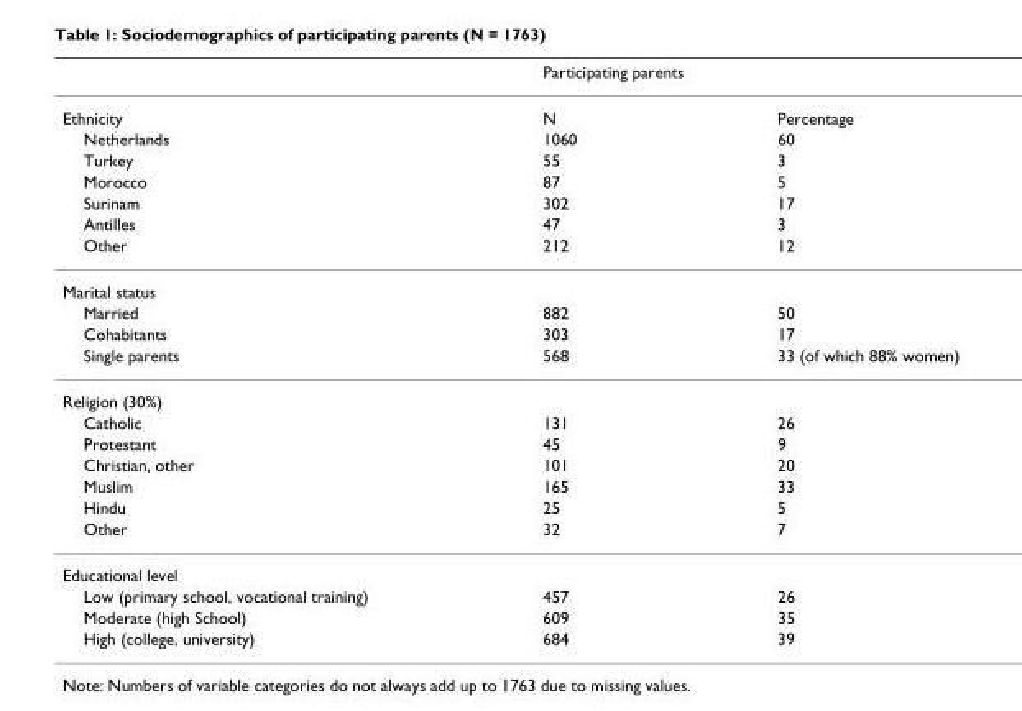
<table><thead><tr><td></td><td>Participating parents</td><td></td></tr></thead><tbody><tr><td>Ethnicity</td><td>N</td><td>Percentage</td></tr><tr><td>Netherlands</td><td>1060</td><td>60</td></tr><tr><td>Turkey</td><td>55</td><td>3</td></tr><tr><td>Morocco</td><td>87</td><td>5</td></tr><tr><td>Surinam</td><td>302</td><td>17</td></tr><tr><td>Antilles</td><td>47</td><td>3</td></tr><tr><td>Other</td><td>212</td><td>12</td></tr><tr><td colspan="3">Marital status</td></tr><tr><td>Married</td><td>882</td><td>50</td></tr><tr><td>Cohabitants</td><td>303</td><td>17</td></tr><tr><td>Single parents</td><td>568</td><td>33 (of which 88% women)</td></tr><tr><td colspan="3">Religion (30%)</td></tr><tr><td>Catholic</td><td>131</td><td>26</td></tr><tr><td>Protestant</td><td>45</td><td>9</td></tr><tr><td>Christian, other</td><td>101</td><td>20</td></tr><tr><td>Muslim</td><td>165</td><td>33</td></tr><tr><td>Hindu</td><td>25</td><td>5</td></tr><tr><td>Other</td><td>32</td><td>7</td></tr><tr><td colspan="3">Educational level</td></tr><tr><td>Low (primary school, vocational training)</td><td>457</td><td>26</td></tr><tr><td>Moderate (high School)</td><td>609</td><td>35</td></tr><tr><td>High (college, university)</td><td>684</td><td>39</td></tr></tbody></table>